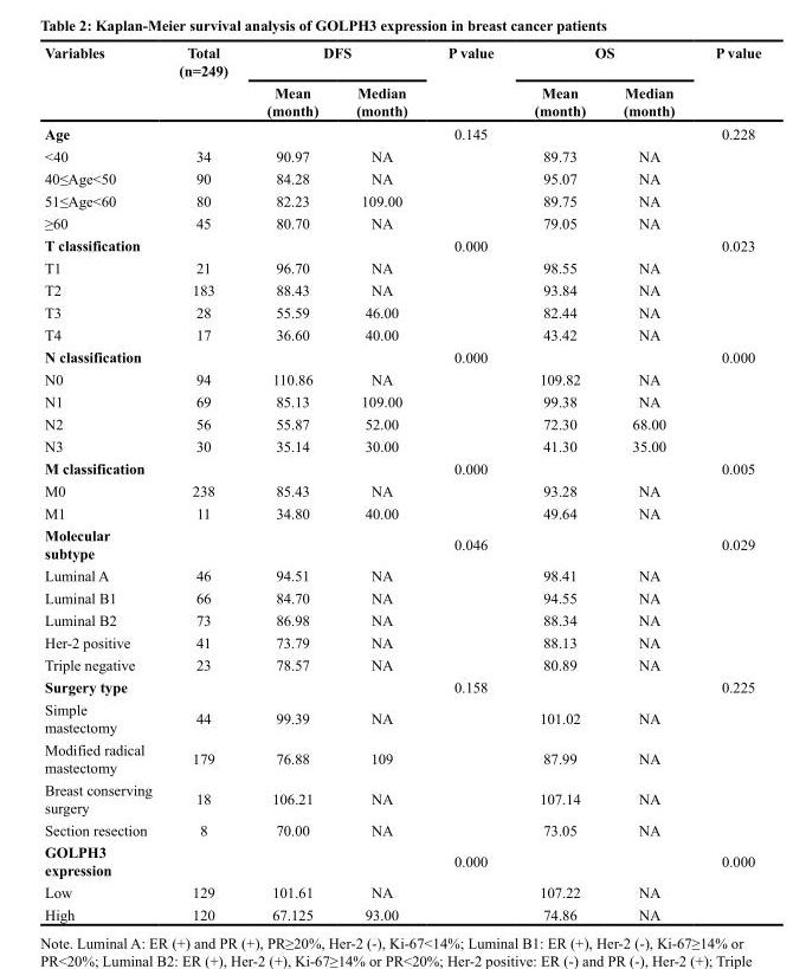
<table><thead><tr><td rowspan="2">Variables</td><td rowspan="2">Total (n=249)</td><td colspan="2">DFS</td><td rowspan="2">P value</td><td colspan="2">OS</td><td rowspan="2">P value</td></tr><tr><td>Mean (month)</td><td>Median (month)</td><td>Mean (month)</td><td>Median (month)</td></tr></thead><tbody><tr><td>Age</td><td></td><td></td><td></td><td>0.145</td><td></td><td></td><td>0.228</td></tr><tr><td>&lt;40</td><td>34</td><td>90.97</td><td>NA</td><td></td><td>89.73</td><td>NA</td><td></td></tr><tr><td>40≤Age&lt;50</td><td>90</td><td>84.28</td><td>NA</td><td></td><td>95.07</td><td>NA</td><td></td></tr><tr><td>51≤Age&lt;60</td><td>80</td><td>82.23</td><td>109.00</td><td></td><td>89.75</td><td>NA</td><td></td></tr><tr><td>≥60</td><td>45</td><td>80.70</td><td>NA</td><td></td><td>79.05</td><td>NA</td><td></td></tr><tr><td>T classification</td><td></td><td></td><td></td><td>0.000</td><td></td><td></td><td>0.023</td></tr><tr><td>T1</td><td>21</td><td>96.70</td><td>NA</td><td></td><td>98.55</td><td>NA</td><td></td></tr><tr><td>T2</td><td>183</td><td>88.43</td><td>NA</td><td></td><td>93.84</td><td>NA</td><td></td></tr><tr><td>T3</td><td>28</td><td>55.59</td><td>46.00</td><td></td><td>82.44</td><td>NA</td><td></td></tr><tr><td>T4</td><td>17</td><td>36.60</td><td>40.00</td><td></td><td>43.42</td><td>NA</td><td></td></tr><tr><td>N classification</td><td></td><td></td><td></td><td>0.000</td><td></td><td></td><td>0.000</td></tr><tr><td>N0</td><td>94</td><td>110.86</td><td>NA</td><td></td><td>109.82</td><td>NA</td><td></td></tr><tr><td>N1</td><td>69</td><td>85.13</td><td>109.00</td><td></td><td>99.38</td><td>NA</td><td></td></tr><tr><td>N2</td><td>56</td><td>55.87</td><td>52.00</td><td></td><td>72.30</td><td>68.00</td><td></td></tr><tr><td>N3</td><td>30</td><td>35.14</td><td>30.00</td><td></td><td>41.30</td><td>35.00</td><td></td></tr><tr><td>M classification</td><td></td><td></td><td></td><td>0.000</td><td></td><td></td><td>0.005</td></tr><tr><td>M0</td><td>238</td><td>85.43</td><td>NA</td><td></td><td>93.28</td><td>NA</td><td></td></tr><tr><td>M1</td><td>11</td><td>34.80</td><td>40.00</td><td></td><td>49.64</td><td>NA</td><td></td></tr><tr><td>Molecular subtype</td><td></td><td></td><td></td><td>0.046</td><td></td><td></td><td>0.029</td></tr><tr><td>Luminal A</td><td>46</td><td>94.51</td><td>NA</td><td></td><td>98.41</td><td>NA</td><td></td></tr><tr><td>Luminal B1</td><td>66</td><td>84.70</td><td>NA</td><td></td><td>94.55</td><td>NA</td><td></td></tr><tr><td>Luminal B2</td><td>73</td><td>86.98</td><td>NA</td><td></td><td>88.34</td><td>NA</td><td></td></tr><tr><td>Her-2 positive</td><td>41</td><td>73.79</td><td>NA</td><td></td><td>88.13</td><td>NA</td><td></td></tr><tr><td>Triple negative</td><td>23</td><td>78.57</td><td>NA</td><td></td><td>80.89</td><td>NA</td><td></td></tr><tr><td>Surgery type</td><td></td><td></td><td></td><td>0.158</td><td></td><td></td><td>0.225</td></tr><tr><td>Simple mastectomy</td><td>44</td><td>99.39</td><td>NA</td><td></td><td>101.02</td><td>NA</td><td></td></tr><tr><td>Modified radical mastectomy</td><td>179</td><td>76.88</td><td>109</td><td></td><td>87.99</td><td>NA</td><td></td></tr><tr><td>Breast conserving surgery</td><td>18</td><td>106.21</td><td>NA</td><td></td><td>107.14</td><td>NA</td><td></td></tr><tr><td>Section resection</td><td>8</td><td>70.00</td><td>NA</td><td></td><td>73.05</td><td>NA</td><td></td></tr><tr><td>GOLPH3 expression</td><td></td><td></td><td></td><td>0.000</td><td></td><td></td><td>0.000</td></tr><tr><td>Low</td><td>129</td><td>101.61</td><td>NA</td><td></td><td>107.22</td><td>NA</td><td></td></tr><tr><td>High</td><td>120</td><td>67.125</td><td>93.00</td><td></td><td>74.86</td><td>NA</td><td></td></tr></tbody></table>